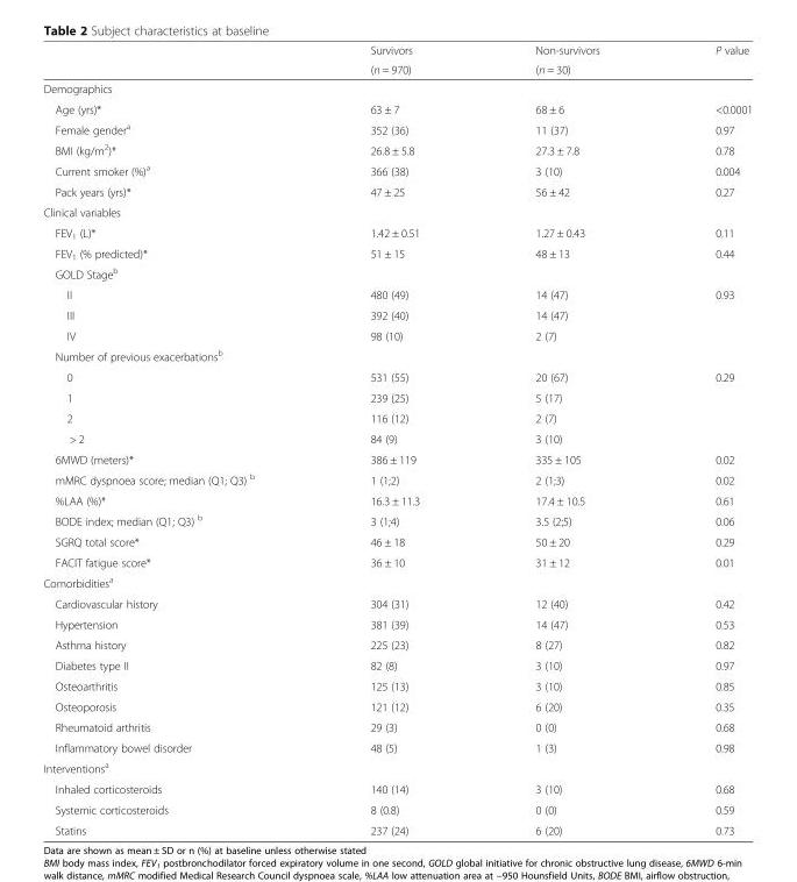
<table><thead><tr><td rowspan="2"></td><td rowspan="2">Survivors (n = 970)</td><td rowspan="2">Non-survivors (n = 30)</td><td rowspan="2">P value</td></tr><tr></tr></thead><tbody><tr><td colspan="4">Demographics</td></tr><tr><td>Age (yrs)*</td><td>63 ± 7</td><td>68 ± 6</td><td>&lt;0.0001</td></tr><tr><td>Female gender<sup>a</sup></td><td>352 (36)</td><td>11 (37)</td><td>0.97</td></tr><tr><td>BMI (kg/m<sup>2</sup>)*</td><td>26.8 ± 5.8</td><td>27.3 ± 7.8</td><td>0.78</td></tr><tr><td>Current smoker (%)<sup>a</sup></td><td>366 (38)</td><td>3 (10)</td><td>0.004</td></tr><tr><td>Pack years (yrs)*</td><td>47 ± 25</td><td>56 ± 42</td><td>0.27</td></tr><tr><td colspan="4">Clinical variables</td></tr><tr><td>FEV<sub>1</sub> (L)*</td><td>1.42 ± 0.51</td><td>1.27 ± 0.43</td><td>0.11</td></tr><tr><td>FEV<sub>1</sub> (% predicted)*</td><td>51 ± 15</td><td>48 ± 13</td><td>0.44</td></tr><tr><td colspan="4">GOLD Stage<sup>b</sup></td></tr><tr><td>II</td><td>480 (49)</td><td>14 (47)</td><td rowspan="3">0.93</td></tr><tr><td>III</td><td>392 (40)</td><td>14 (47)</td></tr><tr><td>IV</td><td>98 (10)</td><td>2 (7)</td></tr><tr><td colspan="4">Number of previous exacerbations<sup>b</sup></td></tr><tr><td>0</td><td>531 (55)</td><td>20 (67)</td><td rowspan="4">0.29</td></tr><tr><td>1</td><td>239 (25)</td><td>5 (17)</td></tr><tr><td>2</td><td>116 (12)</td><td>2 (7)</td></tr><tr><td>&gt; 2</td><td>84 (9)</td><td>3 (10)</td></tr><tr><td>6MWD (meters)*</td><td>386 ± 119</td><td>335 ± 105</td><td>0.02</td></tr><tr><td>mMRC dyspnoea score; median (Q1; Q3) <sup>b</sup></td><td>1 (1;2)</td><td>2 (1;3)</td><td>0.02</td></tr><tr><td>%LAA (%)*</td><td>16.3 ± 11.3</td><td>17.4 ± 10.5</td><td>0.61</td></tr><tr><td>BODE index; median (Q1; Q3) <sup>b</sup></td><td>3 (1;4)</td><td>3.5 (2;5)</td><td>0.06</td></tr><tr><td>SGRQ total score*</td><td>46 ± 18</td><td>50 ± 20</td><td>0.29</td></tr><tr><td>FACIT fatigue score*</td><td>36 ± 10</td><td>31 ± 12</td><td>0.01</td></tr><tr><td colspan="4">Comorbidities<sup>a</sup></td></tr><tr><td>Cardiovascular history</td><td>304 (31)</td><td>12 (40)</td><td>0.42</td></tr><tr><td>Hypertension</td><td>381 (39)</td><td>14 (47)</td><td>0.53</td></tr><tr><td>Asthma history</td><td>225 (23)</td><td>8 (27)</td><td>0.82</td></tr><tr><td>Diabetes type II</td><td>82 (8)</td><td>3 (10)</td><td>0.97</td></tr><tr><td>Osteoarthritis</td><td>125 (13)</td><td>3 (10)</td><td>0.85</td></tr><tr><td>Osteoporosis</td><td>121 (12)</td><td>6 (20)</td><td>0.35</td></tr><tr><td>Rheumatoid arthritis</td><td>29 (3)</td><td>0 (0)</td><td>0.68</td></tr><tr><td>Inflammatory bowel disorder</td><td>48 (5)</td><td>1 (3)</td><td>0.98</td></tr><tr><td colspan="4">Interventions<sup>a</sup></td></tr><tr><td>Inhaled corticosteroids</td><td>140 (14)</td><td>3 (10)</td><td>0.68</td></tr><tr><td>Systemic corticosteroids</td><td>8 (0.8)</td><td>0 (0)</td><td>0.59</td></tr><tr><td>Statins</td><td>237 (24)</td><td>6 (20)</td><td>0.73</td></tr></tbody></table>